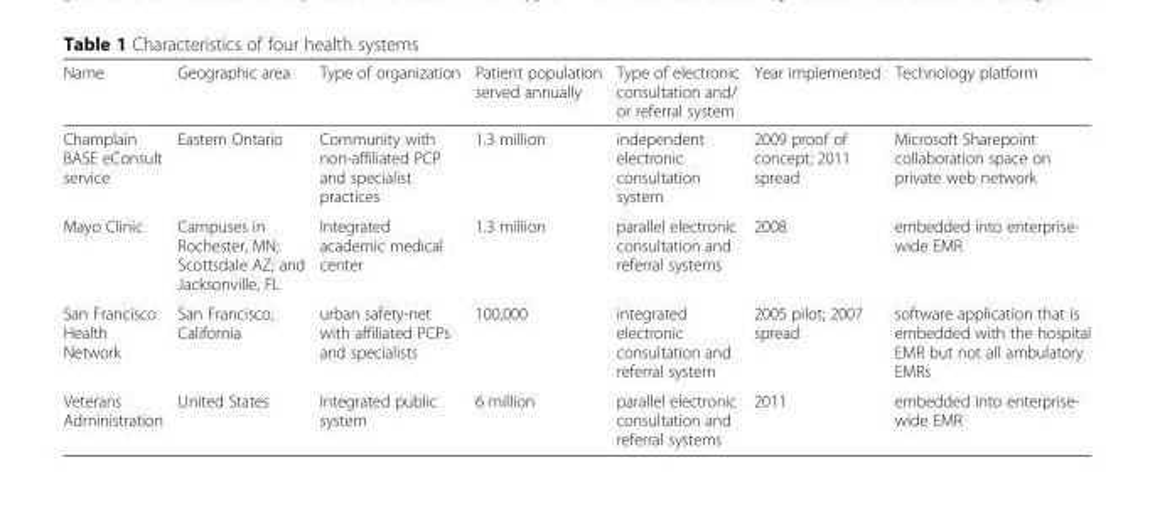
<table><thead><tr><td>Name</td><td>Geographic area</td><td>Type of organization</td><td>Patient population served annually</td><td>Type of electronic consultation and/ or referral system</td><td>Year implemented</td><td>Technology platform</td></tr></thead><tbody><tr><td>Champlain BASE eConsult service</td><td>Eastern Ontario</td><td>Community with non-affiliated PCP and specialist practices</td><td>1.3 million</td><td>independent electronic consultation system</td><td>2009 proof of concept; 2011 spread</td><td>Microsoft Sharepoint collaboration space on private web network</td></tr><tr><td>Mayo Clinic</td><td>Campuses in Rochester, MN; Scottsdale AZ; and Jacksonville, FL</td><td>Integrated academic medical center</td><td>1.3 million</td><td>parallel electronic consultation and referral systems</td><td>2008</td><td>embedded into enterprise- wide EMR</td></tr><tr><td>San Francisco Health Network</td><td>San Francisco, California</td><td>urban safety-net with affiliated PCPs and specialists</td><td>100,000</td><td>integrated electronic consultation and referral system</td><td>2005 pilot; 2007 spread</td><td>software application that is embedded with the hospital EMR but not all ambulatory EMRs</td></tr><tr><td>Veterans Administration</td><td>United States</td><td>Integrated public system</td><td>6 million</td><td>parallel electronic consultation and referral systems</td><td>2011</td><td>embedded into enterprise- wide EMR</td></tr></tbody></table>